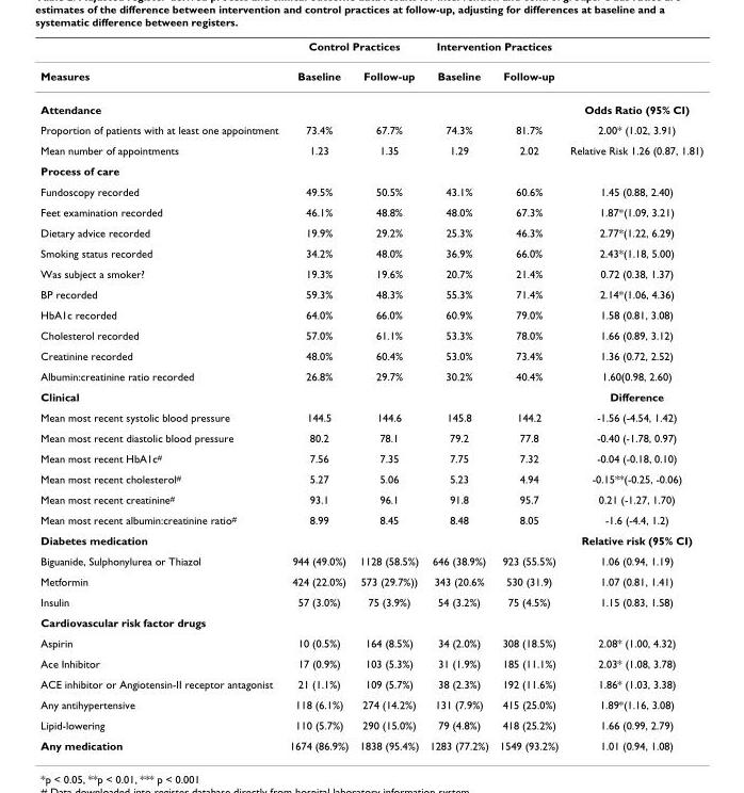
<table><thead><tr><td rowspan="2">Measures</td><td colspan="2">Control Practices</td><td colspan="2">Intervention Practices</td><td rowspan="2"></td></tr><tr><td>Baseline</td><td>Follow-up</td><td>Baseline</td><td>Follow-up</td></tr></thead><tbody><tr><td>Attendance</td><td></td><td></td><td></td><td></td><td>Odds Ratio (95% CI)</td></tr><tr><td>Proportion of patients with at least one appointment</td><td>73.4%</td><td>67.7%</td><td>74.3%</td><td>81.7%</td><td>2.00* (1.02, 3.91)</td></tr><tr><td>Mean number of appointments</td><td>1.23</td><td>1.35</td><td>1.29</td><td>2.02</td><td>Relative Risk 1.26 (0.87, 1.81)</td></tr><tr><td colspan="6">Process of care</td></tr><tr><td>Fundoscopy recorded</td><td>49.5%</td><td>50.5%</td><td>43.1%</td><td>60.6%</td><td>1.45 (0.88, 2.40)</td></tr><tr><td>Feet examination recorded</td><td>46.1%</td><td>48.8%</td><td>48.0%</td><td>67.3%</td><td>1.87*(1.09, 3.21)</td></tr><tr><td>Dietary advice recorded</td><td>19.9%</td><td>29.2%</td><td>25.3%</td><td>46.3%</td><td>2.77*(1.22, 6.29)</td></tr><tr><td>Smoking status recorded</td><td>34.2%</td><td>48.0%</td><td>36.9%</td><td>66.0%</td><td>2.43*(1.18, 5.00)</td></tr><tr><td>Was subject a smoker?</td><td>19.3%</td><td>19.6%</td><td>20.7%</td><td>21.4%</td><td>0.72 (0.38, 1.37)</td></tr><tr><td>BP recorded</td><td>59.3%</td><td>48.3%</td><td>55.3%</td><td>71.4%</td><td>2.14*(1.06, 4.36)</td></tr><tr><td>HbA1c recorded</td><td>64.0%</td><td>66.0%</td><td>60.9%</td><td>79.0%</td><td>1.58 (0.81, 3.08)</td></tr><tr><td>Cholesterol recorded</td><td>57.0%</td><td>61.1%</td><td>53.3%</td><td>78.0%</td><td>1.66 (0.89, 3.12)</td></tr><tr><td>Creatinine recorded</td><td>48.0%</td><td>60.4%</td><td>53.0%</td><td>73.4%</td><td>1.36 (0.72, 2.52)</td></tr><tr><td>Albumin:creatinine ratio recorded</td><td>26.8%</td><td>29.7%</td><td>30.2%</td><td>40.4%</td><td>1.60(0.98, 2.60)</td></tr><tr><td>Clinical</td><td></td><td></td><td></td><td></td><td>Difference</td></tr><tr><td>Mean most recent systolic blood pressure</td><td>144.5</td><td>144.6</td><td>145.8</td><td>144.2</td><td>-1.56 (-4.54, 1.42)</td></tr><tr><td>Mean most recent diastolic blood pressure</td><td>80.2</td><td>78.1</td><td>79.2</td><td>77.8</td><td>-0.40 (-1.78, 0.97)</td></tr><tr><td>Mean most recent HbA1c<sup>#</sup></td><td>7.56</td><td>7.35</td><td>7.75</td><td>7.32</td><td>-0.04 (-0.18, 0.10)</td></tr><tr><td>Mean most recent cholesterol<sup>#</sup></td><td>5.27</td><td>5.06</td><td>5.23</td><td>4.94</td><td>-0.15**(-0.25, -0.06)</td></tr><tr><td>Mean most recent creatinine<sup>#</sup></td><td>93.1</td><td>96.1</td><td>91.8</td><td>95.7</td><td>0.21 (-1.27, 1.70)</td></tr><tr><td>Mean most recent albumin:creatinine ratio<sup>#</sup></td><td>8.99</td><td>8.45</td><td>8.48</td><td>8.05</td><td>-1.6 (-4.4, 1.2)</td></tr><tr><td>Diabetes medication</td><td></td><td></td><td></td><td></td><td>Relative risk (95% CI)</td></tr><tr><td>Biguanide, Sulphonylurea or Thiazol</td><td>944 (49.0%)</td><td>1128 (58.5%)</td><td>646 (38.9%)</td><td>923 (55.5%)</td><td>1.06 (0.94, 1.19)</td></tr><tr><td>Metformin</td><td>424 (22.0%)</td><td>573 (29.7%))</td><td>343 (20.6%</td><td>530 (31.9)</td><td>1.07 (0.81, 1.41)</td></tr><tr><td>Insulin</td><td>57 (3.0%)</td><td>75 (3.9%)</td><td>54 (3.2%)</td><td>75 (4.5%)</td><td>1.15 (0.83, 1.58)</td></tr><tr><td colspan="6">Cardiovascular risk factor drugs</td></tr><tr><td>Aspirin</td><td>10 (0.5%)</td><td>164 (8.5%)</td><td>34 (2.0%)</td><td>308 (18.5%)</td><td>2.08* (1.00, 4.32)</td></tr><tr><td>Ace Inhibitor</td><td>17 (0.9%)</td><td>103 (5.3%)</td><td>31 (1.9%)</td><td>185 (11.1%)</td><td>2.03* (1.08, 3.78)</td></tr><tr><td>ACE inhibitor or Angiotensin-II receptor antagonist</td><td>21 (1.1%)</td><td>109 (5.7%)</td><td>38 (2.3%)</td><td>192 (11.6%)</td><td>1.86* (1.03, 3.38)</td></tr><tr><td>Any antihypertensive</td><td>118 (6.1%)</td><td>274 (14.2%)</td><td>131 (7.9%)</td><td>415 (25.0%)</td><td>1.89*(1.16, 3.08)</td></tr><tr><td>Lipid-lowering</td><td>110 (5.7%)</td><td>290 (15.0%)</td><td>79 (4.8%)</td><td>418 (25.2%)</td><td>1.66 (0.99, 2.79)</td></tr><tr><td>Any medication</td><td>1674 (86.9%)</td><td>1838 (95.4%)</td><td>1283 (77.2%)</td><td>1549 (93.2%)</td><td>1.01 (0.94, 1.08)</td></tr></tbody></table>